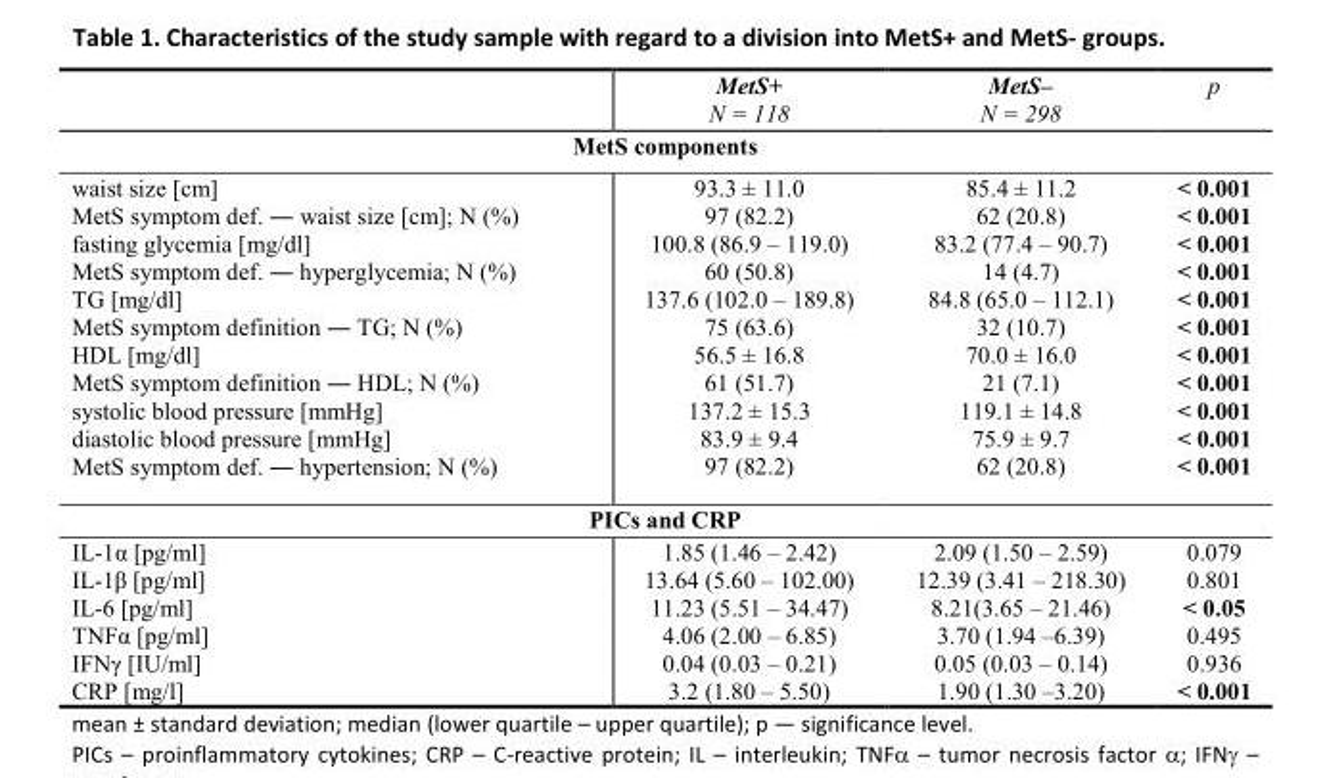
<table><thead><tr><td></td><td>MetS+ N = 118</td><td>MetS– N = 298</td><td>p</td></tr></thead><tbody><tr><td colspan="4">MetS components</td></tr><tr><td>waist size [cm] MetS symptom def. ― waist size [cm]; N (%) fasting glycemia [mg/dl] MetS symptom def. ― hyperglycemia; N (%) TG [mg/dl] MetS symptom definition ― TG; N (%) HDL [mg/dl] MetS symptom definition ― HDL; N (%) systolic blood pressure [mmHg] diastolic blood pressure [mmHg] MetS symptom def. ― hypertension; N (%)</td><td>93.3 ± 11.0 97 (82.2) 100.8 (86.9 – 119.0) 60 (50.8) 137.6 (102.0 – 189.8) 75 (63.6) 56.5 ± 16.8 61 (51.7) 137.2 ± 15.3 83.9 ± 9.4 97 (82.2)</td><td>85.4 ± 11.2 62 (20.8) 83.2 (77.4 – 90.7) 14 (4.7) 84.8 (65.0 – 112.1) 32 (10.7) 70.0 ± 16.0 21 (7.1) 119.1 ± 14.8 75.9 ± 9.7 62 (20.8)</td><td>&lt; 0.001 &lt; 0.001 &lt; 0.001 &lt; 0.001 &lt; 0.001 &lt; 0.001 &lt; 0.001 &lt; 0.001 &lt; 0.001 &lt; 0.001 &lt; 0.001</td></tr><tr><td colspan="4">PICs and CRP</td></tr><tr><td>IL-1α [pg/ml]</td><td>1.85 (1.46 – 2.42)</td><td>2.09 (1.50 – 2.59)</td><td>0.079</td></tr><tr><td>IL-1β [pg/ml]</td><td>13.64 (5.60 – 102.00)</td><td>12.39 (3.41 – 218.30)</td><td>0.801</td></tr><tr><td>IL-6 [pg/ml]</td><td>11.23 (5.51 – 34.47)</td><td>8.21(3.65 – 21.46)</td><td>&lt; 0.05</td></tr><tr><td>TNFα [pg/ml]</td><td>4.06 (2.00 – 6.85)</td><td>3.70 (1.94 –6.39)</td><td>0.495</td></tr><tr><td>IFNγ [IU/ml]</td><td>0.04 (0.03 – 0.21)</td><td>0.05 (0.03 – 0.14)</td><td>0.936</td></tr><tr><td>CRP [mg/l]</td><td>3.2 (1.80 – 5.50)</td><td>1.90 (1.30 –3.20)</td><td>&lt; 0.001</td></tr></tbody></table>